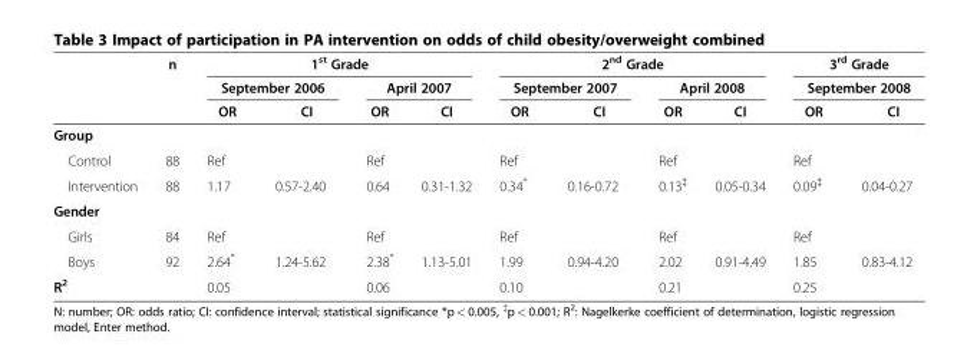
<table><thead><tr><td rowspan="3"></td><td rowspan="3">n</td><td colspan="4">1<sup>st</sup> Grade</td><td colspan="4">2<sup>nd</sup> Grade</td><td rowspan="2" colspan="2">3<sup>rd</sup> Grade September 2008</td></tr><tr><td colspan="2">September 2006</td><td colspan="2">April 2007</td><td colspan="2">September 2007</td><td colspan="2">April 2008</td></tr><tr><td>OR</td><td>CI</td><td>OR</td><td>CI</td><td>OR</td><td>CI</td><td>OR</td><td>CI</td><td>OR</td><td>CI</td></tr></thead><tbody><tr><td colspan="12">Group</td></tr><tr><td>Control</td><td>88</td><td>Ref</td><td></td><td>Ref</td><td></td><td>Ref</td><td></td><td>Ref</td><td></td><td>Ref</td><td></td></tr><tr><td>Intervention</td><td>88</td><td>1.17</td><td>0.57-2.40</td><td>0.64</td><td>0.31-1.32</td><td>0.34*</td><td>0.16-0.72</td><td>0.13<sup>‡</sup></td><td>0.05-0.34</td><td>0.09<sup>‡</sup></td><td>0.04-0.27</td></tr><tr><td colspan="12">Gender</td></tr><tr><td>Girls</td><td>84</td><td>Ref</td><td></td><td>Ref</td><td></td><td>Ref</td><td></td><td>Ref</td><td></td><td>Ref</td><td></td></tr><tr><td>Boys</td><td>92</td><td>2.64*</td><td>1.24-5.62</td><td>2.38*</td><td>1.13-5.01</td><td>1.99</td><td>0.94-4.20</td><td>2.02</td><td>0.91-4.49</td><td>1.85</td><td>0.83-4.12</td></tr><tr><td>R<sup>2</sup></td><td></td><td>0.05</td><td></td><td>0.06</td><td></td><td>0.10</td><td></td><td>0.21</td><td></td><td>0.25</td><td></td></tr></tbody></table>